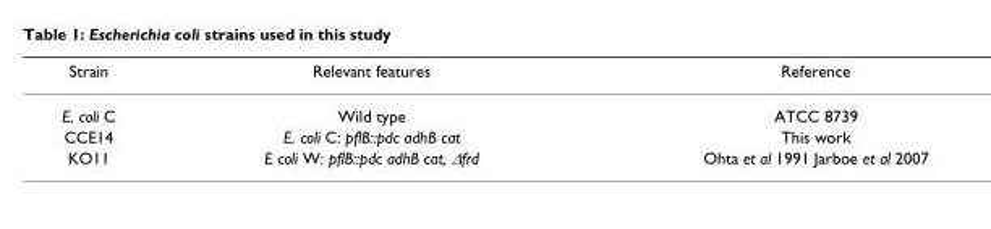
<table><thead><tr><td>Strain</td><td>Relevant features</td><td>Reference</td></tr></thead><tbody><tr><td>E. coli C</td><td>Wild type</td><td>ATCC 8739</td></tr><tr><td>CCE14</td><td>E. coli C: pflB::pdc adhB cat</td><td>This work</td></tr><tr><td>KO11</td><td>E coli W: pflB::pdc adhB cat, ∆frd</td><td>Ohta et al 1991 Jarboe et al 2007</td></tr></tbody></table>